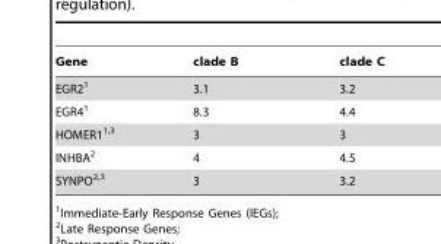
<table><thead><tr><td>Gene</td><td>clade B</td><td>clade C</td></tr></thead><tbody><tr><td>EGR2<sup>1</sup></td><td>3.1</td><td>3.2</td></tr><tr><td>EGR4<sup>1</sup></td><td>8.3</td><td>4.4</td></tr><tr><td>HOMER1<sup>1,</sup>3</td><td>3</td><td>3</td></tr><tr><td>INHBA<sup>2</sup></td><td>4</td><td>4.5</td></tr><tr><td>SYNPO<sup>2,</sup>3</td><td>3</td><td>3.2</td></tr></tbody></table>